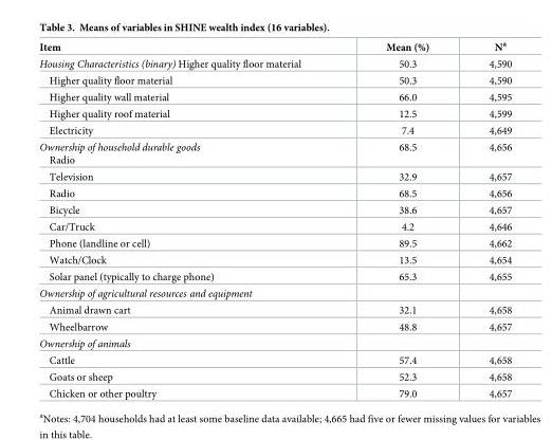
<table><thead><tr><td>Item</td><td>Mean (%)</td><td>N<sup>a</sup></td></tr></thead><tbody><tr><td>Housing Characteristics (binary) Higher quality floor material</td><td>50.3</td><td>4,590</td></tr><tr><td>Higher quality floor material</td><td>50.3</td><td>4,590</td></tr><tr><td>Higher quality wall material</td><td>66.0</td><td>4,595</td></tr><tr><td>Higher quality roof material</td><td>12.5</td><td>4,599</td></tr><tr><td>Electricity</td><td>7.4</td><td>4,649</td></tr><tr><td>Ownership of household durable goods Radio</td><td>68.5</td><td>4,656</td></tr><tr><td>Television</td><td>32.9</td><td>4,657</td></tr><tr><td>Radio</td><td>68.5</td><td>4,656</td></tr><tr><td>Bicycle</td><td>38.6</td><td>4,657</td></tr><tr><td>Car/Truck</td><td>4.2</td><td>4,646</td></tr><tr><td>Phone (landline or cell)</td><td>89.5</td><td>4,662</td></tr><tr><td>Watch/Clock</td><td>13.5</td><td>4,654</td></tr><tr><td>Solar panel (typically to charge phone)</td><td>65.3</td><td>4,655</td></tr><tr><td colspan="3">Ownership of agricultural resources and equipment</td></tr><tr><td>Animal drawn cart</td><td>32.1</td><td>4,658</td></tr><tr><td>Wheelbarrow</td><td>48.8</td><td>4,657</td></tr><tr><td colspan="3">Ownership of animals</td></tr><tr><td>Cattle</td><td>57.4</td><td>4,658</td></tr><tr><td>Goats or sheep</td><td>52.3</td><td>4,658</td></tr><tr><td>Chicken or other poultry</td><td>79.0</td><td>4,657</td></tr></tbody></table>